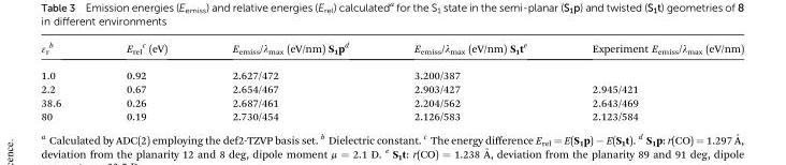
<table><thead><tr><td>ε<sub>r</sub> <sup>b</sup></td><td>E<sub>rel</sub> <sup>c</sup> (eV)</td><td>E<sub>emiss</sub>/λ<sub>max</sub> (eV/nm) S<sub>1</sub>p<sup>d</sup></td><td>E<sub>emiss</sub>/λ<sub>max</sub> (eV/nm) S<sub>1</sub>t<sup>e</sup></td><td>Experiment E<sub>emiss</sub>/λ<sub>max</sub> (eV/nm)</td></tr></thead><tbody><tr><td>1.0</td><td>0.92</td><td>2.627/472</td><td>3.200/387</td><td></td></tr><tr><td>2.2</td><td>0.67</td><td>2.654/467</td><td>2.903/427</td><td>2.945/421</td></tr><tr><td>38.6</td><td>0.26</td><td>2.687/461</td><td>2.204/562</td><td>2.643/469</td></tr><tr><td>80</td><td>0.19</td><td>2.730/454</td><td>2.126/583</td><td>2.123/584</td></tr></tbody></table>